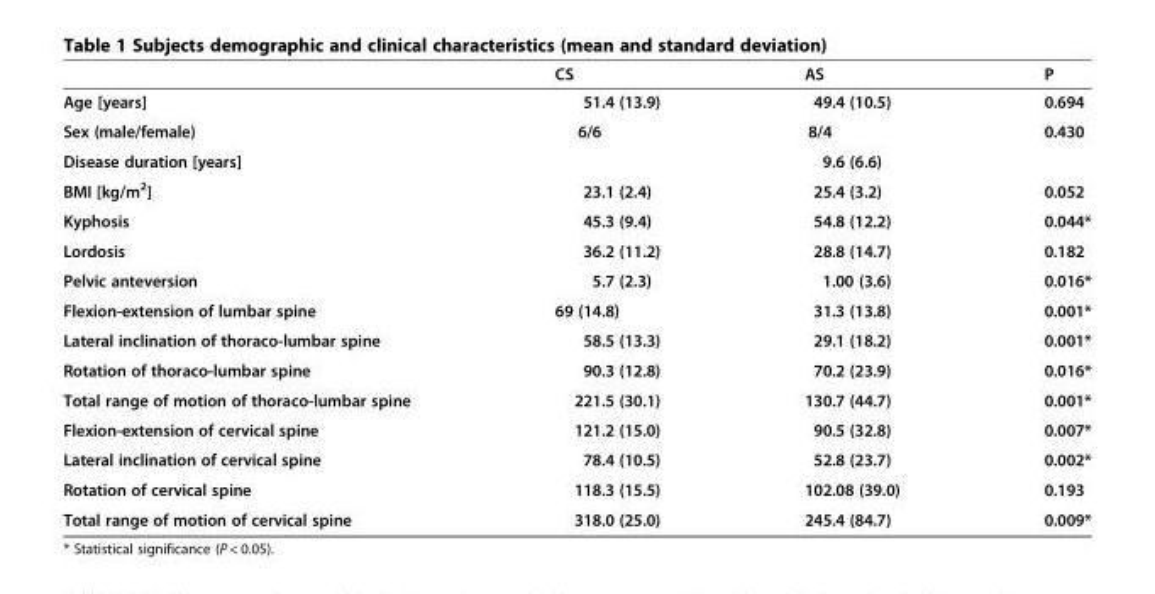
<table><thead><tr><td></td><td>CS</td><td>AS</td><td>P</td></tr></thead><tbody><tr><td>Age [years]</td><td>51.4 (13.9)</td><td>49.4 (10.5)</td><td>0.694</td></tr><tr><td>Sex (male/female)</td><td>6/6</td><td>8/4</td><td>0.430</td></tr><tr><td>Disease duration [years]</td><td></td><td>9.6 (6.6)</td><td></td></tr><tr><td>BMI [kg/m<sup>2</sup>]</td><td>23.1 (2.4)</td><td>25.4 (3.2)</td><td>0.052</td></tr><tr><td>Kyphosis</td><td>45.3 (9.4)</td><td>54.8 (12.2)</td><td>0.044*</td></tr><tr><td>Lordosis</td><td>36.2 (11.2)</td><td>28.8 (14.7)</td><td>0.182</td></tr><tr><td>Pelvic anteversion</td><td>5.7 (2.3)</td><td>1.00 (3.6)</td><td>0.016*</td></tr><tr><td>Flexion-extension of lumbar spine</td><td>69 (14.8)</td><td>31.3 (13.8)</td><td>0.001*</td></tr><tr><td>Lateral inclination of thoraco-lumbar spine</td><td>58.5 (13.3)</td><td>29.1 (18.2)</td><td>0.001*</td></tr><tr><td>Rotation of thoraco-lumbar spine</td><td>90.3 (12.8)</td><td>70.2 (23.9)</td><td>0.016*</td></tr><tr><td>Total range of motion of thoraco-lumbar spine</td><td>221.5 (30.1)</td><td>130.7 (44.7)</td><td>0.001*</td></tr><tr><td>Flexion-extension of cervical spine</td><td>121.2 (15.0)</td><td>90.5 (32.8)</td><td>0.007*</td></tr><tr><td>Lateral inclination of cervical spine</td><td>78.4 (10.5)</td><td>52.8 (23.7)</td><td>0.002*</td></tr><tr><td>Rotation of cervical spine</td><td>118.3 (15.5)</td><td>102.08 (39.0)</td><td>0.193</td></tr><tr><td>Total range of motion of cervical spine</td><td>318.0 (25.0)</td><td>245.4 (84.7)</td><td>0.009*</td></tr></tbody></table>